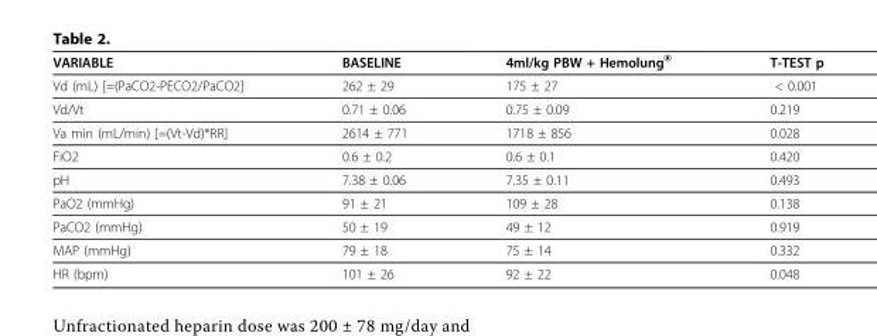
<table><thead><tr><td>VARIABLE</td><td>BASELINE</td><td>4ml/kg PBW + Hemolung®</td><td>T-TEST p</td></tr></thead><tbody><tr><td>Vd (mL) [=(PaCO2-PECO2/PaCO2]</td><td>262 ± 29</td><td>175 ± 27</td><td>&lt; 0.001</td></tr><tr><td>Vd/Vt</td><td>0.71 ± 0.06</td><td>0.75 ± 0.09</td><td>0.219</td></tr><tr><td>Va min (mL/min) [=(Vt-Vd)*RR]</td><td>2614 ± 771</td><td>1718 ± 856</td><td>0.028</td></tr><tr><td>FiO2</td><td>0.6 ± 0.2</td><td>0.6 ± 0.1</td><td>0.420</td></tr><tr><td>pH</td><td>7.38 ± 0.06</td><td>7.35 ± 0.11</td><td>0.493</td></tr><tr><td>PaO2 (mmHg)</td><td>91 ± 21</td><td>109 ± 28</td><td>0.138</td></tr><tr><td>PaCO2 (mmHg)</td><td>50 ± 19</td><td>49 ± 12</td><td>0.919</td></tr><tr><td>MAP (mmHg)</td><td>79 ± 18</td><td>75 ± 14</td><td>0.332</td></tr><tr><td>HR (bpm)</td><td>101 ± 26</td><td>92 ± 22</td><td>0.048</td></tr></tbody></table>